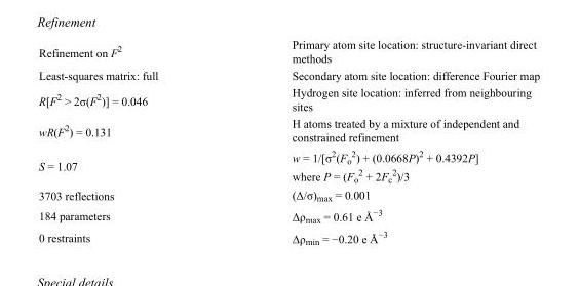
<table><tbody><tr><td>Refinement on F<sup>2</sup></td><td>Primary atom site location: structure-invariant direct methods</td></tr><tr><td>Least-squares matrix: full</td><td>Secondary atom site location: difference Fourier map</td></tr><tr><td>R[F<sup>2</sup> &gt; 2σ(F<sup>2</sup>)] = 0.046</td><td>Hydrogen site location: inferred from neighbouring sites</td></tr><tr><td>wR(F<sup>2</sup>) = 0.131</td><td>H atoms treated by a mixture of independent and constrained refinement</td></tr><tr><td>S = 1.07</td><td>w = 1/[σ<sup>2</sup>(F<sub>o</sub> <sup>2</sup>) + (0.0668P)<sup>2</sup> + 0.4392P] where P = (F<sub>o</sub> <sup>2</sup> + 2F<sub>c</sub> <sup>2</sup>)/3</td></tr><tr><td>3703 reflections</td><td>(Δ/σ)<sub>max</sub> = 0.001</td></tr><tr><td>184 parameters</td><td>Δρ<sub>max</sub> = 0.61 e Å<sup>−3</sup></td></tr><tr><td>0 restraints</td><td>Δρ<sub>min</sub> = −0.20 e Å<sup>−3</sup></td></tr></tbody></table>